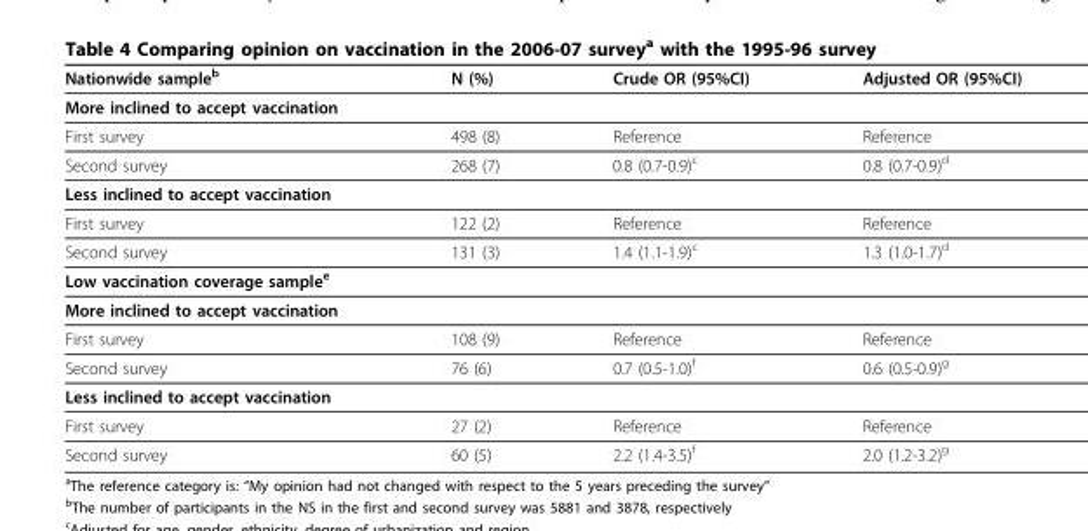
<table><thead><tr><td>Nationwide sample<sup>b</sup></td><td>N (%)</td><td>Crude OR (95%CI)</td><td>Adjusted OR (95%CI)</td></tr></thead><tbody><tr><td colspan="4">More inclined to accept vaccination</td></tr><tr><td>First survey</td><td>498 (8)</td><td>Reference</td><td>Reference</td></tr><tr><td>Second survey</td><td>268 (7)</td><td>0.8 (0.7-0.9)<sup>c</sup></td><td>0.8 (0.7-0.9)<sup>d</sup></td></tr><tr><td colspan="4">Less inclined to accept vaccination</td></tr><tr><td>First survey</td><td>122 (2)</td><td>Reference</td><td>Reference</td></tr><tr><td>Second survey</td><td>131 (3)</td><td>1.4 (1.1-1.9)<sup>c</sup></td><td>1.3 (1.0-1.7)<sup>d</sup></td></tr><tr><td colspan="4">Low vaccination coverage sample<sup>e</sup></td></tr><tr><td colspan="4">More inclined to accept vaccination</td></tr><tr><td>First survey</td><td>108 (9)</td><td>Reference</td><td>Reference</td></tr><tr><td>Second survey</td><td>76 (6)</td><td>0.7 (0.5-1.0)<sup>f</sup></td><td>0.6 (0.5-0.9)<sup>g</sup></td></tr><tr><td colspan="4">Less inclined to accept vaccination</td></tr><tr><td>First survey</td><td>27 (2)</td><td>Reference</td><td>Reference</td></tr><tr><td>Second survey</td><td>60 (5)</td><td>2.2 (1.4-3.5)<sup>f</sup></td><td>2.0 (1.2-3.2)<sup>g</sup></td></tr></tbody></table>